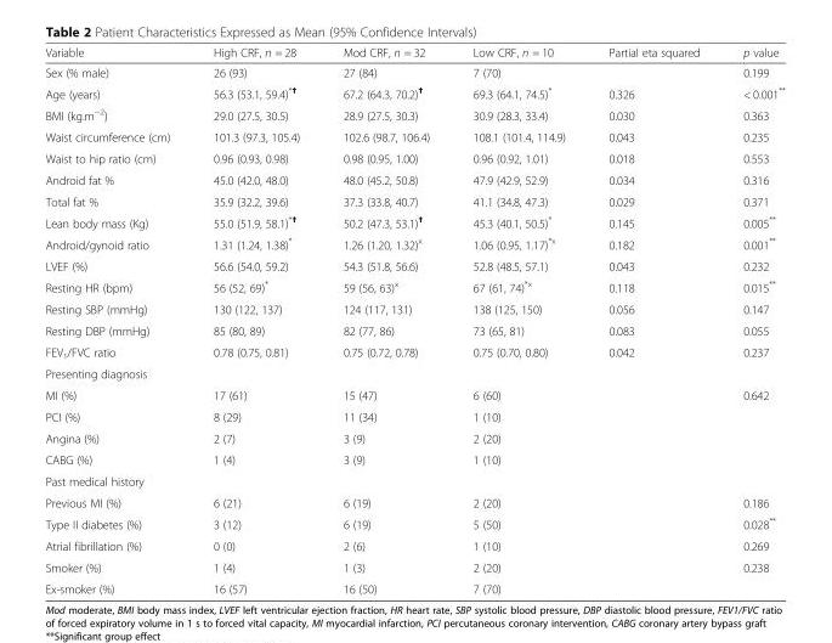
<table><thead><tr><td>Variable</td><td>High CRF, n = 28</td><td>Mod CRF, n = 32</td><td>Low CRF, n = 10</td><td>Partial eta squared</td><td>p value</td></tr></thead><tbody><tr><td>Sex (% male)</td><td>26 (93)</td><td>27 (84)</td><td>7 (70)</td><td></td><td>0.199</td></tr><tr><td>Age (years)</td><td>56.3 (53.1, 59.4)<sup>*✝</sup></td><td>67.2 (64.3, 70.2)<sup>✝</sup></td><td>69.3 (64.1, 74.5)*</td><td>0.326</td><td>&lt; 0.001**</td></tr><tr><td>BMI (kg.m<sup>−2</sup>)</td><td>29.0 (27.5, 30.5)</td><td>28.9 (27.5, 30.3)</td><td>30.9 (28.3, 33.4)</td><td>0.030</td><td>0.363</td></tr><tr><td>Waist circumference (cm)</td><td>101.3 (97.3, 105.4)</td><td>102.6 (98.7, 106.4)</td><td>108.1 (101.4, 114.9)</td><td>0.043</td><td>0.235</td></tr><tr><td>Waist to hip ratio (cm)</td><td>0.96 (0.93, 0.98)</td><td>0.98 (0.95, 1.00)</td><td>0.96 (0.92, 1.01)</td><td>0.018</td><td>0.553</td></tr><tr><td>Android fat %</td><td>45.0 (42.0, 48.0)</td><td>48.0 (45.2, 50.8)</td><td>47.9 (42.9, 52.9)</td><td>0.034</td><td>0.316</td></tr><tr><td>Total fat %</td><td>35.9 (32.2, 39.6)</td><td>37.3 (33.8, 40.7)</td><td>41.1 (34.8, 47.3)</td><td>0.029</td><td>0.371</td></tr><tr><td>Lean body mass (Kg)</td><td>55.0 (51.9, 58.1)<sup>*✝</sup></td><td>50.2 (47.3, 53.1)<sup>✝</sup></td><td>45.3 (40.1, 50.5)*</td><td>0.145</td><td>0.005**</td></tr><tr><td>Android/gynoid ratio</td><td>1.31 (1.24, 1.38)*</td><td>1.26 (1.20, 1.32)<sup>x</sup></td><td>1.06 (0.95, 1.17)<sup>*x</sup></td><td>0.182</td><td>0.001**</td></tr><tr><td>LVEF (%)</td><td>56.6 (54.0, 59.2)</td><td>54.3 (51.8, 56.6)</td><td>52.8 (48.5, 57.1)</td><td>0.043</td><td>0.232</td></tr><tr><td>Resting HR (bpm)</td><td>56 (52, 69)*</td><td>59 (56, 63)<sup>x</sup></td><td>67 (61, 74)<sup>*x</sup></td><td>0.118</td><td>0.015**</td></tr><tr><td>Resting SBP (mmHg)</td><td>130 (122, 137)</td><td>124 (117, 131)</td><td>138 (125, 150)</td><td>0.056</td><td>0.147</td></tr><tr><td>Resting DBP (mmHg)</td><td>85 (80, 89)</td><td>82 (77, 86)</td><td>73 (65, 81)</td><td>0.083</td><td>0.055</td></tr><tr><td>FEV<sub>1</sub>/FVC ratio</td><td>0.78 (0.75, 0.81)</td><td>0.75 (0.72, 0.78)</td><td>0.75 (0.70, 0.80)</td><td>0.042</td><td>0.237</td></tr><tr><td colspan="6">Presenting diagnosis</td></tr><tr><td>MI (%)</td><td>17 (61)</td><td>15 (47)</td><td>6 (60)</td><td></td><td>0.642</td></tr><tr><td>PCI (%)</td><td>8 (29)</td><td>11 (34)</td><td>1 (10)</td><td></td><td></td></tr><tr><td>Angina (%)</td><td>2 (7)</td><td>3 (9)</td><td>2 (20)</td><td></td><td></td></tr><tr><td>CABG (%)</td><td>1 (4)</td><td>3 (9)</td><td>1 (10)</td><td></td><td></td></tr><tr><td colspan="6">Past medical history</td></tr><tr><td>Previous MI (%)</td><td>6 (21)</td><td>6 (19)</td><td>2 (20)</td><td></td><td>0.186</td></tr><tr><td>Type II diabetes (%)</td><td>3 (12)</td><td>6 (19)</td><td>5 (50)</td><td></td><td>0.028**</td></tr><tr><td>Atrial fibrillation (%)</td><td>0 (0)</td><td>2 (6)</td><td>1 (10)</td><td></td><td>0.269</td></tr><tr><td>Smoker (%)</td><td>1 (4)</td><td>1 (3)</td><td>2 (20)</td><td></td><td>0.238</td></tr><tr><td>Ex-smoker (%)</td><td>16 (57)</td><td>16 (50)</td><td>7 (70)</td><td></td><td></td></tr></tbody></table>